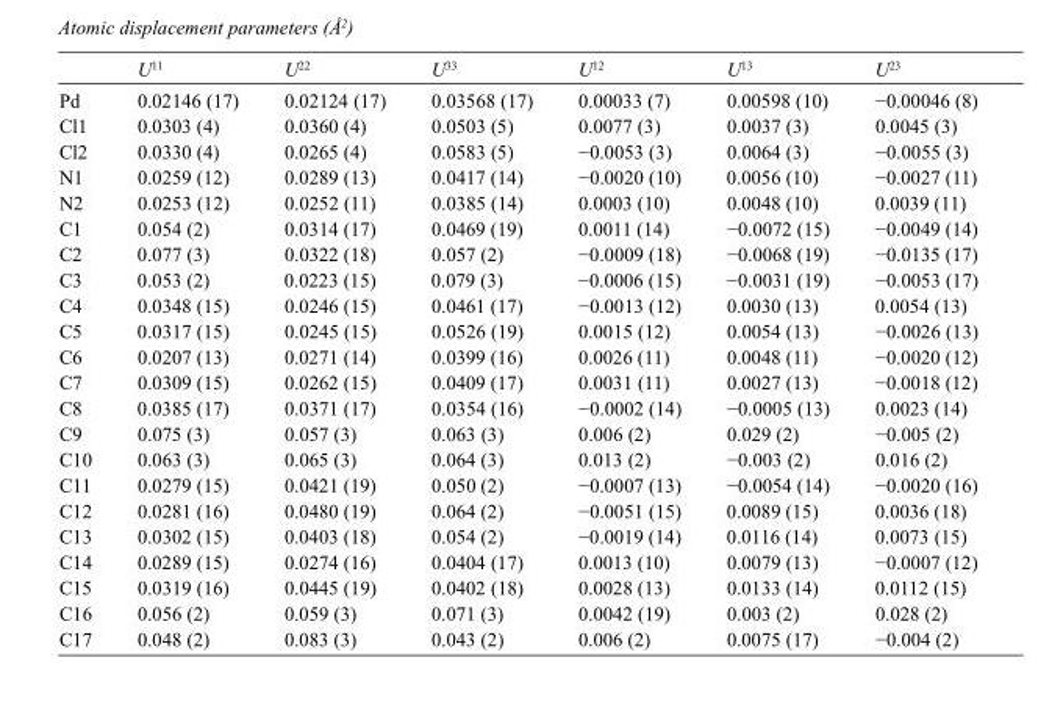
<table><thead><tr><td></td><td>U<sup>11</sup></td><td>U<sup>22</sup></td><td>U<sup>33</sup></td><td>U<sup>12</sup></td><td>U<sup>13</sup></td><td>U<sup>23</sup></td></tr></thead><tbody><tr><td>Pd</td><td>0.02146 (17)</td><td>0.02124 (17)</td><td>0.03568 (17)</td><td>0.00033 (7)</td><td>0.00598 (10)</td><td>−0.00046 (8)</td></tr><tr><td>Cl1</td><td>0.0303 (4)</td><td>0.0360 (4)</td><td>0.0503 (5)</td><td>0.0077 (3)</td><td>0.0037 (3)</td><td>0.0045 (3)</td></tr><tr><td>Cl2</td><td>0.0330 (4)</td><td>0.0265 (4)</td><td>0.0583 (5)</td><td>−0.0053 (3)</td><td>0.0064 (3)</td><td>−0.0055 (3)</td></tr><tr><td>N1</td><td>0.0259 (12)</td><td>0.0289 (13)</td><td>0.0417 (14)</td><td>−0.0020 (10)</td><td>0.0056 (10)</td><td>−0.0027 (11)</td></tr><tr><td>N2</td><td>0.0253 (12)</td><td>0.0252 (11)</td><td>0.0385 (14)</td><td>0.0003 (10)</td><td>0.0048 (10)</td><td>0.0039 (11)</td></tr><tr><td>C1</td><td>0.054 (2)</td><td>0.0314 (17)</td><td>0.0469 (19)</td><td>0.0011 (14)</td><td>−0.0072 (15)</td><td>−0.0049 (14)</td></tr><tr><td>C2</td><td>0.077 (3)</td><td>0.0322 (18)</td><td>0.057 (2)</td><td>−0.0009 (18)</td><td>−0.0068 (19)</td><td>−0.0135 (17)</td></tr><tr><td>C3</td><td>0.053 (2)</td><td>0.0223 (15)</td><td>0.079 (3)</td><td>−0.0006 (15)</td><td>−0.0031 (19)</td><td>−0.0053 (17)</td></tr><tr><td>C4</td><td>0.0348 (15)</td><td>0.0246 (15)</td><td>0.0461 (17)</td><td>−0.0013 (12)</td><td>0.0030 (13)</td><td>0.0054 (13)</td></tr><tr><td>C5</td><td>0.0317 (15)</td><td>0.0245 (15)</td><td>0.0526 (19)</td><td>0.0015 (12)</td><td>0.0054 (13)</td><td>−0.0026 (13)</td></tr><tr><td>C6</td><td>0.0207 (13)</td><td>0.0271 (14)</td><td>0.0399 (16)</td><td>0.0026 (11)</td><td>0.0048 (11)</td><td>−0.0020 (12)</td></tr><tr><td>C7</td><td>0.0309 (15)</td><td>0.0262 (15)</td><td>0.0409 (17)</td><td>0.0031 (11)</td><td>0.0027 (13)</td><td>−0.0018 (12)</td></tr><tr><td>C8</td><td>0.0385 (17)</td><td>0.0371 (17)</td><td>0.0354 (16)</td><td>−0.0002 (14)</td><td>−0.0005 (13)</td><td>0.0023 (14)</td></tr><tr><td>C9</td><td>0.075 (3)</td><td>0.057 (3)</td><td>0.063 (3)</td><td>0.006 (2)</td><td>0.029 (2)</td><td>−0.005 (2)</td></tr><tr><td>C10</td><td>0.063 (3)</td><td>0.065 (3)</td><td>0.064 (3)</td><td>0.013 (2)</td><td>−0.003 (2)</td><td>0.016 (2)</td></tr><tr><td>C11</td><td>0.0279 (15)</td><td>0.0421 (19)</td><td>0.050 (2)</td><td>−0.0007 (13)</td><td>−0.0054 (14)</td><td>−0.0020 (16)</td></tr><tr><td>C12</td><td>0.0281 (16)</td><td>0.0480 (19)</td><td>0.064 (2)</td><td>−0.0051 (15)</td><td>0.0089 (15)</td><td>0.0036 (18)</td></tr><tr><td>C13</td><td>0.0302 (15)</td><td>0.0403 (18)</td><td>0.054 (2)</td><td>−0.0019 (14)</td><td>0.0116 (14)</td><td>0.0073 (15)</td></tr><tr><td>C14</td><td>0.0289 (15)</td><td>0.0274 (16)</td><td>0.0404 (17)</td><td>0.0013 (10)</td><td>0.0079 (13)</td><td>−0.0007 (12)</td></tr><tr><td>C15</td><td>0.0319 (16)</td><td>0.0445 (19)</td><td>0.0402 (18)</td><td>0.0028 (13)</td><td>0.0133 (14)</td><td>0.0112 (15)</td></tr><tr><td>C16</td><td>0.056 (2)</td><td>0.059 (3)</td><td>0.071 (3)</td><td>0.0042 (19)</td><td>0.003 (2)</td><td>0.028 (2)</td></tr><tr><td>C17</td><td>0.048 (2)</td><td>0.083 (3)</td><td>0.043 (2)</td><td>0.006 (2)</td><td>0.0075 (17)</td><td>−0.004 (2)</td></tr></tbody></table>